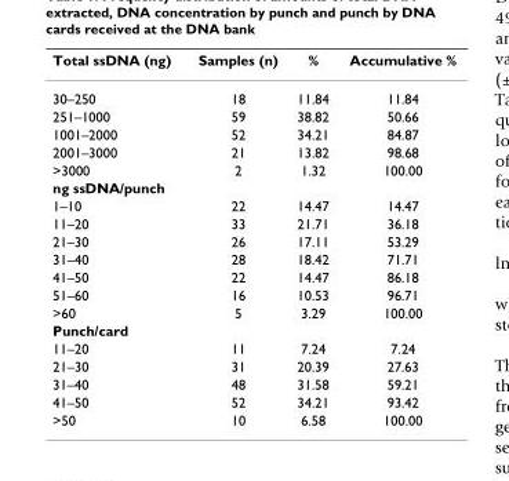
<table><thead><tr><td>Total ssDNA (ng)</td><td>Samples (n)</td><td>%</td><td>Accumulative %</td></tr></thead><tbody><tr><td>30–250</td><td>18</td><td>11.84</td><td>11.84</td></tr><tr><td>251–1000</td><td>59</td><td>38.82</td><td>50.66</td></tr><tr><td>1001–2000</td><td>52</td><td>34.21</td><td>84.87</td></tr><tr><td>2001–3000</td><td>21</td><td>13.82</td><td>98.68</td></tr><tr><td>&gt;3000</td><td>2</td><td>1.32</td><td>100.00</td></tr><tr><td colspan="4">ng ssDNA/punch</td></tr><tr><td>1–10</td><td>22</td><td>14.47</td><td>14.47</td></tr><tr><td>11–20</td><td>33</td><td>21.71</td><td>36.18</td></tr><tr><td>21–30</td><td>26</td><td>17.11</td><td>53.29</td></tr><tr><td>31–40</td><td>28</td><td>18.42</td><td>71.71</td></tr><tr><td>41–50</td><td>22</td><td>14.47</td><td>86.18</td></tr><tr><td>51–60</td><td>16</td><td>10.53</td><td>96.71</td></tr><tr><td>&gt;60</td><td>5</td><td>3.29</td><td>100.00</td></tr><tr><td colspan="4">Punch/card</td></tr><tr><td>11–20</td><td>11</td><td>7.24</td><td>7.24</td></tr><tr><td>21–30</td><td>31</td><td>20.39</td><td>27.63</td></tr><tr><td>31–40</td><td>48</td><td>31.58</td><td>59.21</td></tr><tr><td>41–50</td><td>52</td><td>34.21</td><td>93.42</td></tr><tr><td>&gt;50</td><td>10</td><td>6.58</td><td>100.00</td></tr></tbody></table>